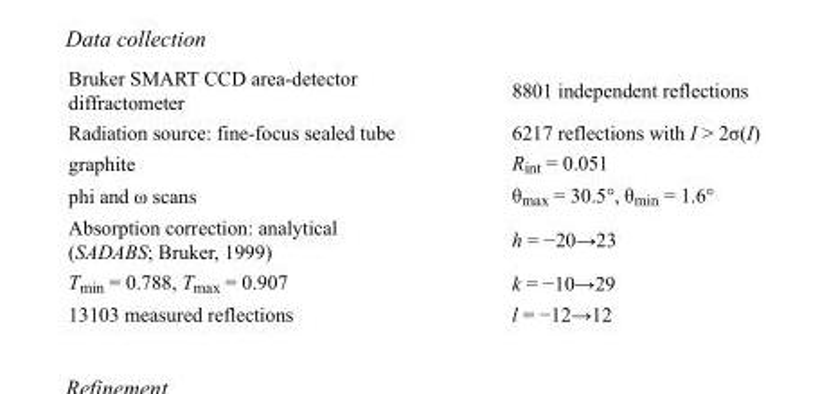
<table><tbody><tr><td>Bruker SMART CCD area-detector diffractometer</td><td>8801 independent reflections</td></tr><tr><td>Radiation source: fine-focus sealed tube</td><td>6217 reflections with I &gt; 2σ(I)</td></tr><tr><td>graphite</td><td>R<sub>int</sub> = 0.051</td></tr><tr><td>phi and ω scans</td><td>θ<sub>max</sub> = 30.5°, θ<sub>min</sub> = 1.6°</td></tr><tr><td>Absorption correction: analytical (SADABS; Bruker, 1999)</td><td>h = −20→23</td></tr><tr><td>T<sub>min</sub> = 0.788, T<sub>max</sub> = 0.907</td><td>k = −10→29</td></tr><tr><td>13103 measured reflections</td><td>l = −12→12</td></tr></tbody></table>